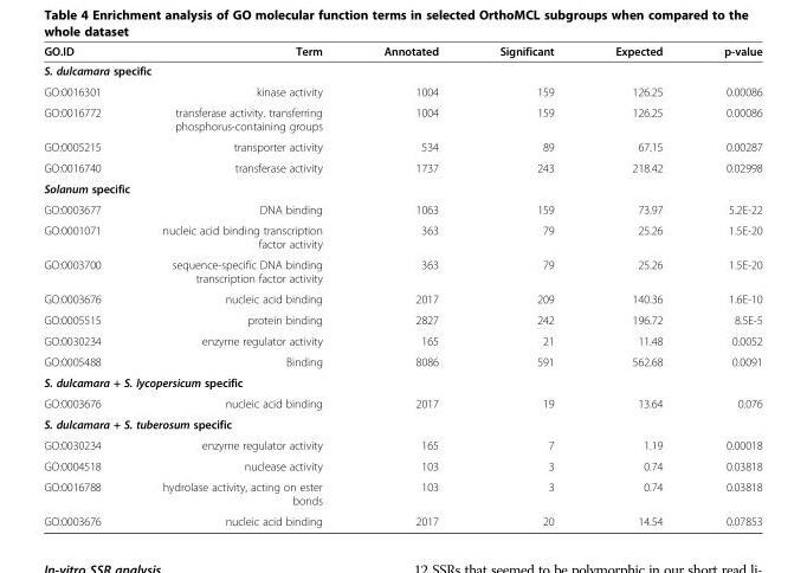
<table><thead><tr><td>GO.ID</td><td>Term</td><td>Annotated</td><td>Significant</td><td>Expected</td><td>p-value</td></tr></thead><tbody><tr><td colspan="6">S. dulcamara specific</td></tr><tr><td>GO:0016301</td><td>kinase activity</td><td>1004</td><td>159</td><td>126.25</td><td>0.00086</td></tr><tr><td>GO:0016772</td><td>transferase activity. transferring phosphorus-containing groups</td><td>1004</td><td>159</td><td>126.25</td><td>0.00086</td></tr><tr><td>GO:0005215</td><td>transporter activity</td><td>534</td><td>89</td><td>67.15</td><td>0.00287</td></tr><tr><td>GO:0016740</td><td>transferase activity</td><td>1737</td><td>243</td><td>218.42</td><td>0.02998</td></tr><tr><td colspan="6">Solanum specific</td></tr><tr><td>GO:0003677</td><td>DNA binding</td><td>1063</td><td>159</td><td>73.97</td><td>5.2E-22</td></tr><tr><td>GO:0001071</td><td>nucleic acid binding transcription factor activity</td><td>363</td><td>79</td><td>25.26</td><td>1.5E-20</td></tr><tr><td>GO:0003700</td><td>sequence-specific DNA binding transcription factor activity</td><td>363</td><td>79</td><td>25.26</td><td>1.5E-20</td></tr><tr><td>GO:0003676</td><td>nucleic acid binding</td><td>2017</td><td>209</td><td>140.36</td><td>1.6E-10</td></tr><tr><td>GO:0005515</td><td>protein binding</td><td>2827</td><td>242</td><td>196.72</td><td>8.5E-5</td></tr><tr><td>GO:0030234</td><td>enzyme regulator activity</td><td>165</td><td>21</td><td>11.48</td><td>0.0052</td></tr><tr><td>GO:0005488</td><td>Binding</td><td>8086</td><td>591</td><td>562.68</td><td>0.0091</td></tr><tr><td colspan="6">S. dulcamara + S. lycopersicum specific</td></tr><tr><td>GO:0003676</td><td>nucleic acid binding</td><td>2017</td><td>19</td><td>13.64</td><td>0.076</td></tr><tr><td colspan="6">S. dulcamara + S. tuberosum specific</td></tr><tr><td>GO:0030234</td><td>enzyme regulator activity</td><td>165</td><td>7</td><td>1.19</td><td>0.00018</td></tr><tr><td>GO:0004518</td><td>nuclease activity</td><td>103</td><td>3</td><td>0.74</td><td>0.03818</td></tr><tr><td>GO:0016788</td><td>hydrolase activity, acting on ester bonds</td><td>103</td><td>3</td><td>0.74</td><td>0.03818</td></tr><tr><td>GO:0003676</td><td>nucleic acid binding</td><td>2017</td><td>20</td><td>14.54</td><td>0.07853</td></tr></tbody></table>